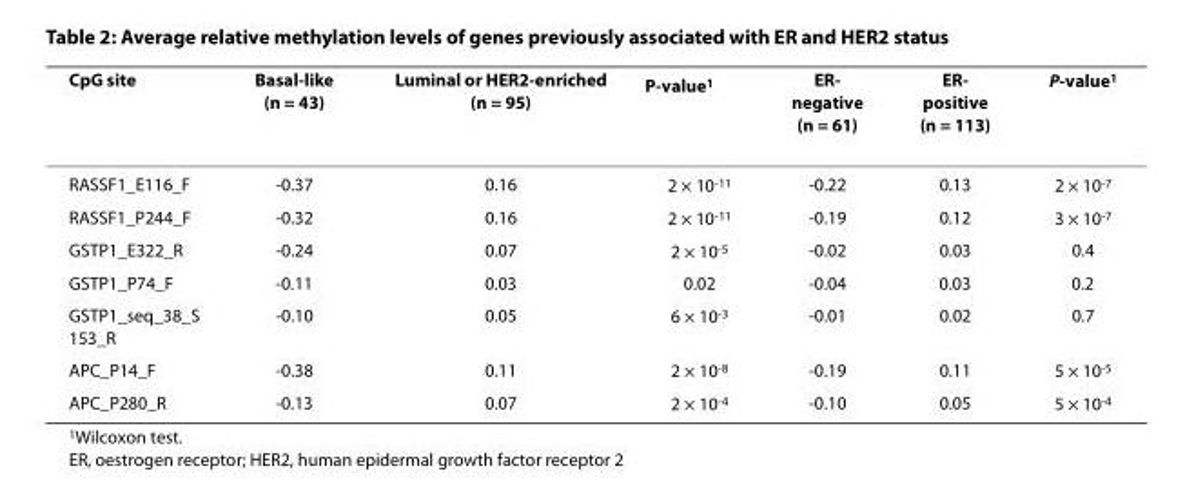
<table><thead><tr><td>CpG site</td><td>Basal-like (n = 43)</td><td>Luminal or HER2-enriched (n = 95)</td><td>P-value<sup>1</sup></td><td>ER- negative (n = 61)</td><td>ER- positive (n = 113)</td><td>P-value<sup>1</sup></td></tr></thead><tbody><tr><td>RASSF1_E116_F</td><td>-0.37</td><td>0.16</td><td>2 × 10<sup>-11</sup></td><td>-0.22</td><td>0.13</td><td>2 × 10<sup>-7</sup></td></tr><tr><td>RASSF1_P244_F</td><td>-0.32</td><td>0.16</td><td>2 × 10<sup>-11</sup></td><td>-0.19</td><td>0.12</td><td>3 × 10<sup>-7</sup></td></tr><tr><td>GSTP1_E322_R</td><td>-0.24</td><td>0.07</td><td>2 × 10<sup>-5</sup></td><td>-0.02</td><td>0.03</td><td>0.4</td></tr><tr><td>GSTP1_P74_F</td><td>-0.11</td><td>0.03</td><td>0.02</td><td>-0.04</td><td>0.03</td><td>0.2</td></tr><tr><td>GSTP1_seq_38_S 153_R</td><td>-0.10</td><td>0.05</td><td>6 × 10<sup>-3</sup></td><td>-0.01</td><td>0.02</td><td>0.7</td></tr><tr><td>APC_P14_F</td><td>-0.38</td><td>0.11</td><td>2 × 10<sup>-8</sup></td><td>-0.19</td><td>0.11</td><td>5 × 10<sup>-5</sup></td></tr><tr><td>APC_P280_R</td><td>-0.13</td><td>0.07</td><td>2 × 10<sup>-4</sup></td><td>-0.10</td><td>0.05</td><td>5 × 10<sup>-4</sup></td></tr></tbody></table>